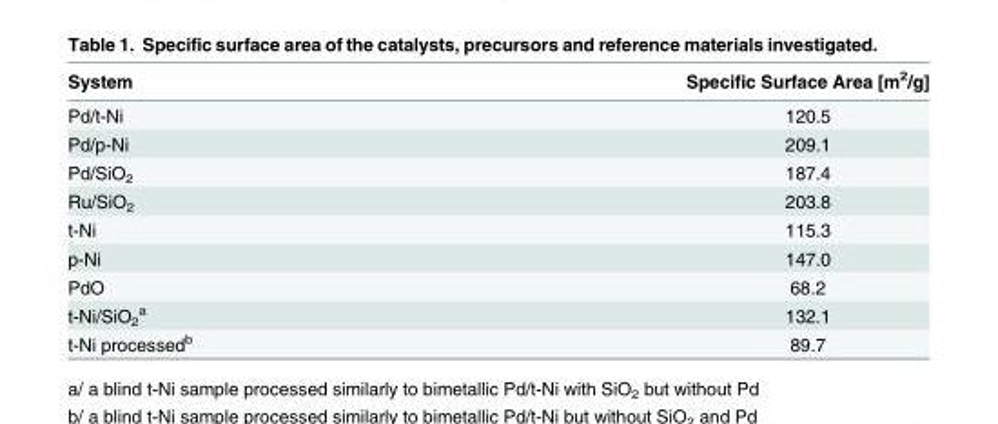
<table><thead><tr><td>System</td><td>Specific Surface Area [m<sup>2</sup>/g]</td></tr></thead><tbody><tr><td>Pd/t-Ni</td><td>120.5</td></tr><tr><td>Pd/p-Ni</td><td>209.1</td></tr><tr><td>Pd/SiO<sub>2</sub></td><td>187.4</td></tr><tr><td>Ru/SiO<sub>2</sub></td><td>203.8</td></tr><tr><td>t-Ni</td><td>115.3</td></tr><tr><td>p-Ni</td><td>147.0</td></tr><tr><td>PdO</td><td>68.2</td></tr><tr><td>t-Ni/SiO<sub>2</sub> <sup>a</sup></td><td>132.1</td></tr><tr><td>t-Ni processed<sup>b</sup></td><td>89.7</td></tr></tbody></table>